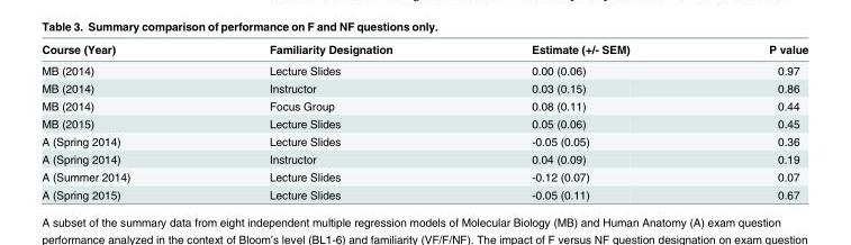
<table><thead><tr><td>Course (Year)</td><td>Familiarity Designation</td><td>Estimate (+/- SEM)</td><td>P value</td></tr></thead><tbody><tr><td>MB (2014)</td><td>Lecture Slides</td><td>0.00 (0.06)</td><td>0.97</td></tr><tr><td>MB (2014)</td><td>Instructor</td><td>0.03 (0.15)</td><td>0.86</td></tr><tr><td>MB (2014)</td><td>Focus Group</td><td>0.08 (0.11)</td><td>0.44</td></tr><tr><td>MB (2015)</td><td>Lecture Slides</td><td>0.05 (0.06)</td><td>0.45</td></tr><tr><td>A (Spring 2014)</td><td>Lecture Slides</td><td>-0.05 (0.05)</td><td>0.36</td></tr><tr><td>A (Spring 2014)</td><td>Instructor</td><td>0.04 (0.09)</td><td>0.19</td></tr><tr><td>A (Summer 2014)</td><td>Lecture Slides</td><td>-0.12 (0.07)</td><td>0.07</td></tr><tr><td>A (Spring 2015)</td><td>Lecture Slides</td><td>-0.05 (0.11)</td><td>0.67</td></tr></tbody></table>